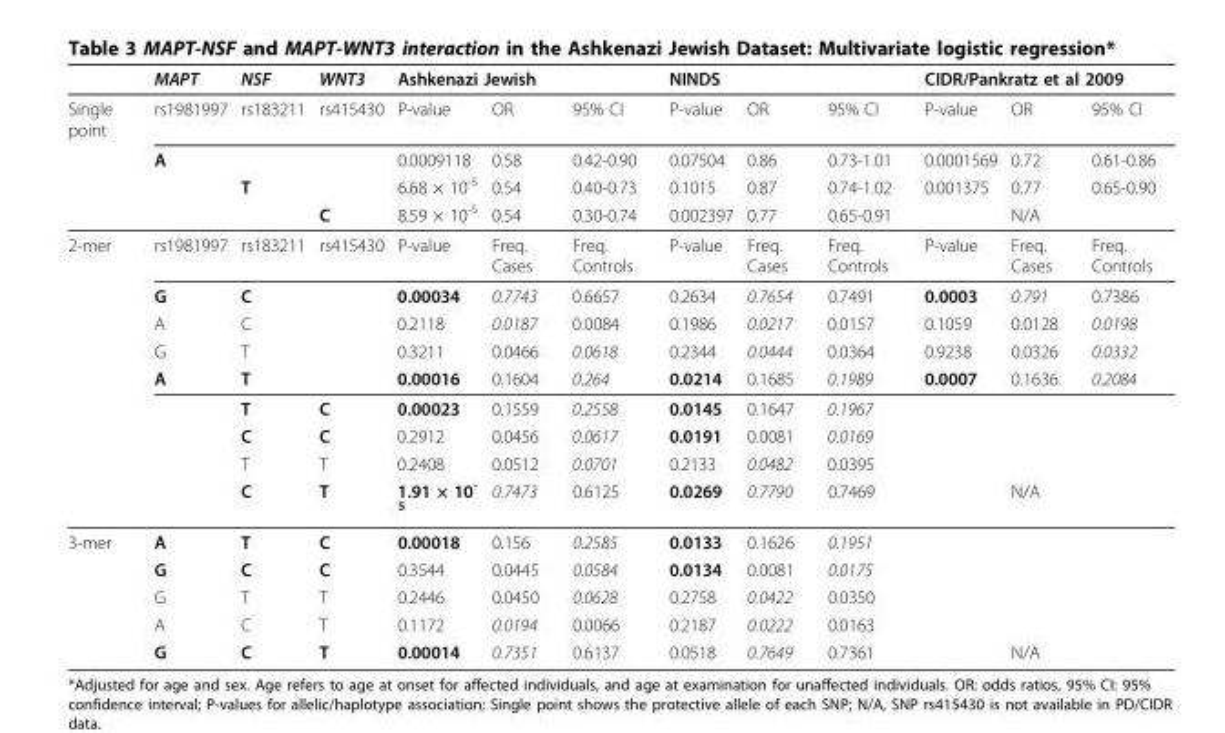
<table><thead><tr><td rowspan="2">Single point</td><td rowspan="2">MAPT rs1981997</td><td rowspan="2">NSF rs183211</td><td rowspan="2">WNT3 rs415430</td><td colspan="3">Ashkenazi Jewish</td><td colspan="3">NINDS</td><td colspan="3">CIDR/Pankratz et al 2009</td></tr><tr><td>P-value</td><td>OR</td><td>95% CI</td><td>P-value</td><td>OR</td><td>95% CI</td><td>P-value</td><td>OR</td><td>95% CI</td></tr></thead><tbody><tr><td></td><td>A</td><td></td><td></td><td>0.0009118</td><td>0.58</td><td>0.42-0.90</td><td>0.07504</td><td>0.86</td><td>0.73-1.01</td><td>0.0001569</td><td>0.72</td><td>0.61-0.86</td></tr><tr><td></td><td></td><td>T</td><td></td><td>6.68 × 10<sup>-5</sup></td><td>0.54</td><td>0.40-0.73</td><td>0.1015</td><td>0.87</td><td>0.74-1.02</td><td>0.001375</td><td>0.77</td><td>0.65-0.90</td></tr><tr><td></td><td></td><td></td><td>C</td><td>8.59 × 10<sup>-5</sup></td><td>0.54</td><td>0.30-0.74</td><td>0.002397</td><td>0.77</td><td>0.65-0.91</td><td></td><td>N/A</td><td></td></tr><tr><td rowspan="9">2-mer</td><td>rs1981997</td><td>rs183211</td><td>rs415430</td><td>P-value</td><td>Freq. Cases</td><td>Freq. Controls</td><td>P-value</td><td>Freq. Cases</td><td>Freq. Controls</td><td>P-value</td><td>Freq. Cases</td><td>Freq. Controls</td></tr><tr><td>G</td><td>C</td><td></td><td>0.00034</td><td>0.7743</td><td>0.6657</td><td>0.2634</td><td>0.7654</td><td>0.7491</td><td>0.0003</td><td>0.791</td><td>0.7386</td></tr><tr><td>A</td><td>C</td><td></td><td>0.2118</td><td>0.0187</td><td>0.0084</td><td>0.1986</td><td>0.0217</td><td>0.0157</td><td>0.1059</td><td>0.0128</td><td>0.0198</td></tr><tr><td>G</td><td>T</td><td></td><td>0.3211</td><td>0.0466</td><td>0.0618</td><td>0.2344</td><td>0.0444</td><td>0.0364</td><td>0.9238</td><td>0.0326</td><td>0.0332</td></tr><tr><td>A</td><td>T</td><td></td><td>0.00016</td><td>0.1604</td><td>0.264</td><td>0.0214</td><td>0.1685</td><td>0.1989</td><td>0.0007</td><td>0.1636</td><td>0.2084</td></tr><tr><td></td><td>T</td><td>C</td><td>0.00023</td><td>0.1559</td><td>0.2558</td><td>0.0145</td><td>0.1647</td><td>0.1967</td><td></td><td></td><td></td></tr><tr><td></td><td>C</td><td>C</td><td>0.2912</td><td>0.0456</td><td>0.0617</td><td>0.0191</td><td>0.0081</td><td>0.0169</td><td></td><td></td><td></td></tr><tr><td></td><td>T</td><td>T</td><td>0.2408</td><td>0.0512</td><td>0.0701</td><td>0.2133</td><td>0.0482</td><td>0.0395</td><td></td><td></td><td></td></tr><tr><td></td><td>C</td><td>T</td><td>1.91 × 10<sup>- 5</sup></td><td>0.7473</td><td>0.6125</td><td>0.0269</td><td>0.7790</td><td>0.7469</td><td></td><td>N/A</td><td></td></tr><tr><td rowspan="5">3-mer</td><td>A</td><td>T</td><td>C</td><td>0.00018</td><td>0.156</td><td>0.2585</td><td>0.0133</td><td>0.1626</td><td>0.1951</td><td></td><td></td><td></td></tr><tr><td>G</td><td>C</td><td>C</td><td>0.3544</td><td>0.0445</td><td>0.0584</td><td>0.0134</td><td>0.0081</td><td>0.0175</td><td></td><td></td><td></td></tr><tr><td>G</td><td>T</td><td>T</td><td>0.2446</td><td>0.0450</td><td>0.0628</td><td>0.2758</td><td>0.0422</td><td>0.0350</td><td></td><td></td><td></td></tr><tr><td>A</td><td>C</td><td>T</td><td>0.1172</td><td>0.0194</td><td>0.0066</td><td>0.2187</td><td>0.0222</td><td>0.0163</td><td></td><td></td><td></td></tr><tr><td>G</td><td>C</td><td>T</td><td>0.00014</td><td>0.7351</td><td>0.6137</td><td>0.0518</td><td>0.7649</td><td>0.7361</td><td></td><td>N/A</td><td></td></tr></tbody></table>